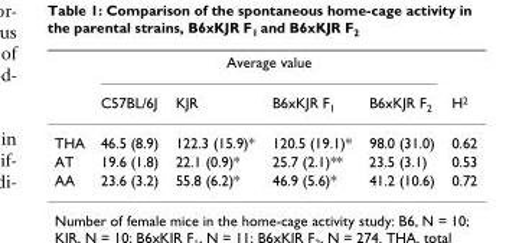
<table><thead><tr><td rowspan="2"></td><td colspan="4">Average value</td><td rowspan="2">H<sup>2</sup></td></tr><tr><td>C57BL/6J</td><td>KJR</td><td>B6xKJR F<sub>1</sub></td><td>B6xKJR F<sub>2</sub></td></tr></thead><tbody><tr><td>THA</td><td>46.5 (8.9)</td><td>122.3 (15.9)*</td><td>120.5 (19.1)*</td><td>98.0 (31.0)</td><td>0.62</td></tr><tr><td>AT</td><td>19.6 (1.8)</td><td>22.1 (0.9)*</td><td>25.7 (2.1)**</td><td>23.5 (3.1)</td><td>0.53</td></tr><tr><td>AA</td><td>23.6 (3.2)</td><td>55.8 (6.2)*</td><td>46.9 (5.6)*</td><td>41.2 (10.6)</td><td>0.72</td></tr></tbody></table>